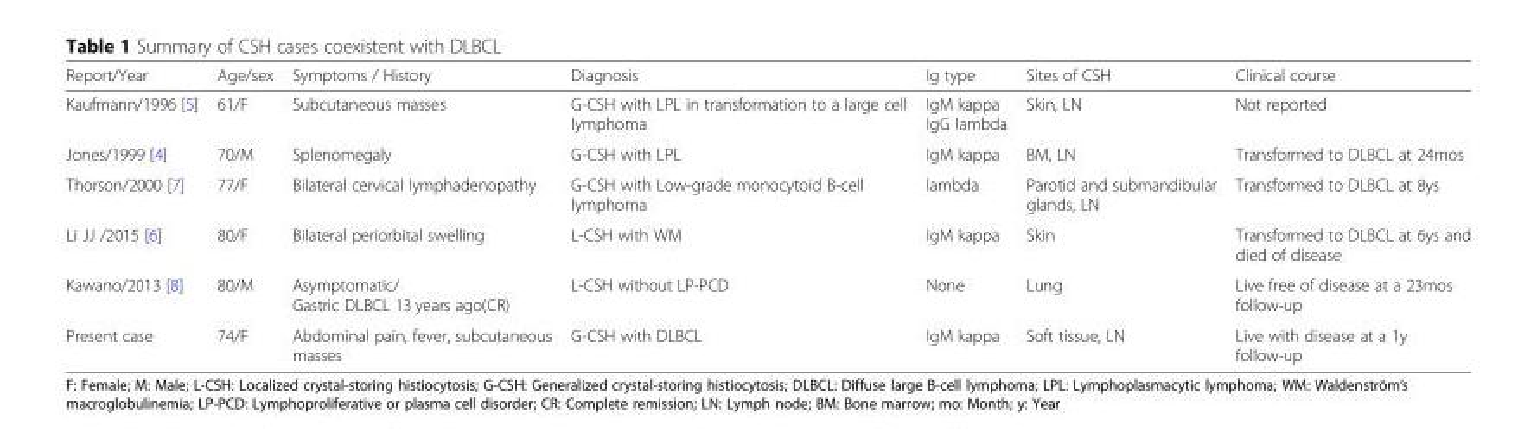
<table><thead><tr><td>Report/Year</td><td>Age/sex</td><td>Symptoms / History</td><td>Diagnosis</td><td>Ig type</td><td>Sites of CSH</td><td>Clinical course</td></tr></thead><tbody><tr><td>Kaufmann/1996 [5]</td><td>61/F</td><td>Subcutaneous masses</td><td>G-CSH with LPL in transformation to a large cell lymphoma</td><td>IgM kappa IgG lambda</td><td>Skin, LN</td><td>Not reported</td></tr><tr><td>Jones/1999 [4]</td><td>70/M</td><td>Splenomegaly</td><td>G-CSH with LPL</td><td>IgM kappa</td><td>BM, LN</td><td>Transformed to DLBCL at 24mos</td></tr><tr><td>Thorson/2000 [7]</td><td>77/F</td><td>Bilateral cervical lymphadenopathy</td><td>G-CSH with Low-grade monocytoid B-cell lymphoma</td><td>lambda</td><td>Parotid and submandibular glands, LN</td><td>Transformed to DLBCL at 8ys</td></tr><tr><td>Li JJ /2015 [6]</td><td>80/F</td><td>Bilateral periorbital swelling</td><td>L-CSH with WM</td><td>IgM kappa</td><td>Skin</td><td>Transformed to DLBCL at 6ys and died of disease</td></tr><tr><td>Kawano/2013 [8]</td><td>80/M</td><td>Asymptomatic/ Gastric DLBCL 13 years ago(CR)</td><td>L-CSH without LP-PCD</td><td>None</td><td>Lung</td><td>Live free of disease at a 23mos follow-up</td></tr><tr><td>Present case</td><td>74/F</td><td>Abdominal pain, fever, subcutaneous masses</td><td>G-CSH with DLBCL</td><td>IgM kappa</td><td>Soft tissue, LN</td><td>Live with disease at a 1y follow-up</td></tr></tbody></table>